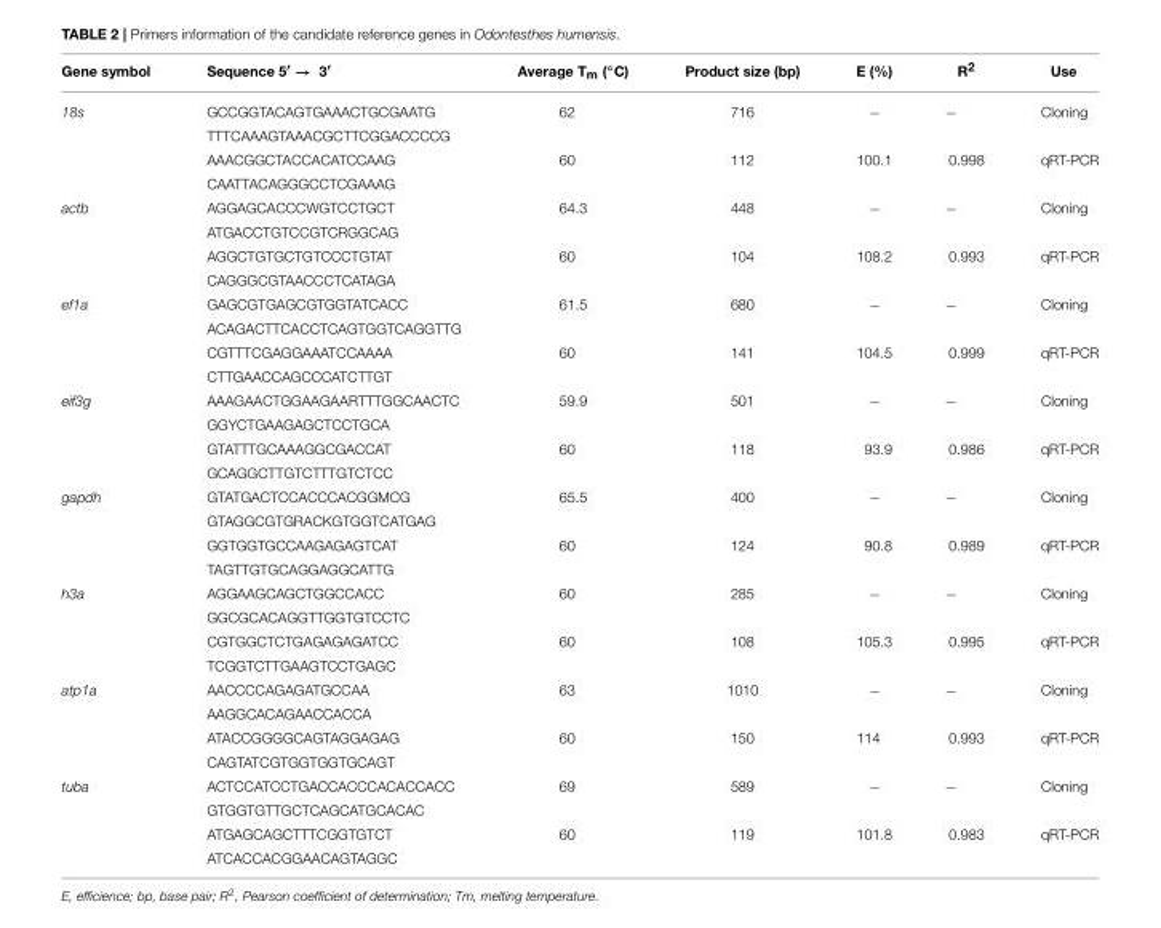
<table><thead><tr><td>Gene symbol</td><td>Sequence 5′ → 3′</td><td>Average Tm (◦C)</td><td>Product size (bp)</td><td>E (%)</td><td>R<sup>2</sup></td><td>Use</td></tr></thead><tbody><tr><td rowspan="4">18s</td><td>GCCGGTACAGTGAAACTGCGAATG</td><td>62</td><td>716</td><td>−</td><td>−</td><td>Cloning</td></tr><tr><td>TTTCAAAGTAAACGCTTCGGACCCCG</td><td></td><td></td><td></td><td></td><td></td></tr><tr><td>AAACGGCTACCACATCCAAG</td><td>60</td><td>112</td><td>100.1</td><td>0.998</td><td>qRT-PCR</td></tr><tr><td>CAATTACAGGGCCTCGAAAG</td><td></td><td></td><td></td><td></td><td></td></tr><tr><td rowspan="4">actb</td><td>AGGAGCACCCWGTCCTGCT</td><td>64.3</td><td>448</td><td>−</td><td>−</td><td>Cloning</td></tr><tr><td>ATGACCTGTCCGTCRGGCAG</td><td></td><td></td><td></td><td></td><td></td></tr><tr><td>AGGCTGTGCTGTCCCTGTAT</td><td>60</td><td>104</td><td>108.2</td><td>0.993</td><td>qRT-PCR</td></tr><tr><td>CAGGGCGTAACCCTCATAGA</td><td></td><td></td><td></td><td></td><td></td></tr><tr><td rowspan="4">ef1a</td><td>GAGCGTGAGCGTGGTATCACC</td><td>61.5</td><td>680</td><td>−</td><td>−</td><td>Cloning</td></tr><tr><td>ACAGACTTCACCTCAGTGGTCAGGTTG</td><td></td><td></td><td></td><td></td><td></td></tr><tr><td>CGTTTCGAGGAAATCCAAAA</td><td>60</td><td>141</td><td>104.5</td><td>0.999</td><td>qRT-PCR</td></tr><tr><td>CTTGAACCAGCCCATCTTGT</td><td></td><td></td><td></td><td></td><td></td></tr><tr><td rowspan="4">eif3g</td><td>AAAGAACTGGAAGAARTTTGGCAACTC</td><td>59.9</td><td>501</td><td>−</td><td>−</td><td>Cloning</td></tr><tr><td>GGYCTGAAGAGCTCCTGCA</td><td></td><td></td><td></td><td></td><td></td></tr><tr><td>GTATTTGCAAAGGCGACCAT</td><td>60</td><td>118</td><td>93.9</td><td>0.986</td><td>qRT-PCR</td></tr><tr><td>GCAGGCTTGTCTTTGTCTCC</td><td></td><td></td><td></td><td></td><td></td></tr><tr><td rowspan="4">gapdh</td><td>GTATGACTCCACCCACGGMCG</td><td>65.5</td><td>400</td><td>−</td><td>−</td><td>Cloning</td></tr><tr><td>GTAGGCGTGRACKGTGGTCATGAG</td><td></td><td></td><td></td><td></td><td></td></tr><tr><td>GGTGGTGCCAAGAGAGTCAT</td><td>60</td><td>124</td><td>90.8</td><td>0.989</td><td>qRT-PCR</td></tr><tr><td>TAGTTGTGCAGGAGGCATTG</td><td></td><td></td><td></td><td></td><td></td></tr><tr><td rowspan="4">h3a</td><td>AGGAAGCAGCTGGCCACC</td><td>60</td><td>285</td><td>−</td><td>−</td><td>Cloning</td></tr><tr><td>GGCGCACAGGTTGGTGTCCTC</td><td></td><td></td><td></td><td></td><td></td></tr><tr><td>CGTGGCTCTGAGAGAGATCC</td><td>60</td><td>108</td><td>105.3</td><td>0.995</td><td>qRT-PCR</td></tr><tr><td>TCGGTCTTGAAGTCCTGAGC</td><td></td><td></td><td></td><td></td><td></td></tr><tr><td rowspan="4">atp1a</td><td>AACCCCAGAGATGCCAA</td><td>63</td><td>1010</td><td>−</td><td>−</td><td>Cloning</td></tr><tr><td>AAGGCACAGAACCACCA</td><td></td><td></td><td></td><td></td><td></td></tr><tr><td>ATACCGGGGCAGTAGGAGAG</td><td>60</td><td>150</td><td>114</td><td>0.993</td><td>qRT-PCR</td></tr><tr><td>CAGTATCGTGGTGGTGCAGT</td><td></td><td></td><td></td><td></td><td></td></tr><tr><td rowspan="4">tuba</td><td>ACTCCATCCTGACCACCCACACCACC</td><td>69</td><td>589</td><td>−</td><td>−</td><td>Cloning</td></tr><tr><td>GTGGTGTTGCTCAGCATGCACAC</td><td></td><td></td><td></td><td></td><td></td></tr><tr><td>ATGAGCAGCTTTCGGTGTCT</td><td>60</td><td>119</td><td>101.8</td><td>0.983</td><td>qRT-PCR</td></tr><tr><td>ATCACCACGGAACAGTAGGC</td><td></td><td></td><td></td><td></td><td></td></tr></tbody></table>